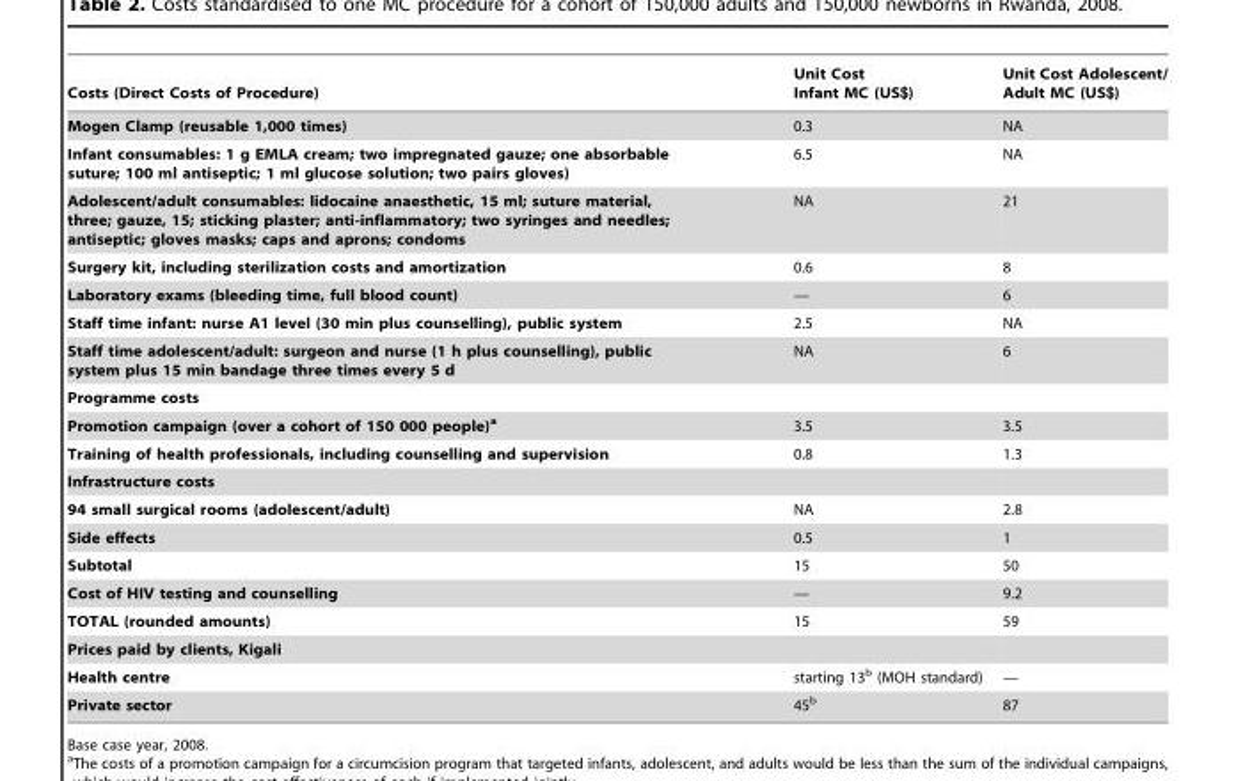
<table><thead><tr><td>Costs (Direct Costs of Procedure)</td><td>Unit Cost Infant MC (US$)</td><td>Unit Cost Adolescent/ Adult MC (US$)</td></tr></thead><tbody><tr><td>Mogen Clamp (reusable 1,000 times)</td><td>0.3</td><td>NA</td></tr><tr><td>Infant consumables: 1 g EMLA cream; two impregnated gauze; one absorbable suture; 100 ml antiseptic; 1 ml glucose solution; two pairs gloves)</td><td>6.5</td><td>NA</td></tr><tr><td>Adolescent/adult consumables: lidocaine anaesthetic, 15 ml; suture material, three; gauze, 15; sticking plaster; anti-inflammatory; two syringes and needles; antiseptic; gloves masks; caps and aprons; condoms</td><td>NA</td><td>21</td></tr><tr><td>Surgery kit, including sterilization costs and amortization</td><td>0.6</td><td>8</td></tr><tr><td>Laboratory exams (bleeding time, full blood count)</td><td>—</td><td>6</td></tr><tr><td>Staff time infant: nurse A1 level (30 min plus counselling), public system</td><td>2.5</td><td>NA</td></tr><tr><td>Staff time adolescent/adult: surgeon and nurse (1 h plus counselling), public system plus 15 min bandage three times every 5 d</td><td>NA</td><td>6</td></tr><tr><td colspan="3">Programme costs</td></tr><tr><td>Promotion campaign (over a cohort of 150 000 people)a</td><td>3.5</td><td>3.5</td></tr><tr><td>Training of health professionals, including counselling and supervision</td><td>0.8</td><td>1.3</td></tr><tr><td colspan="3">Infrastructure costs</td></tr><tr><td>94 small surgical rooms (adolescent/adult)</td><td>NA</td><td>2.8</td></tr><tr><td>Side effects</td><td>0.5</td><td>1</td></tr><tr><td>Subtotal</td><td>15</td><td>50</td></tr><tr><td>Cost of HIV testing and counselling</td><td>—</td><td>9.2</td></tr><tr><td>TOTAL (rounded amounts)</td><td>15</td><td>59</td></tr><tr><td colspan="3">Prices paid by clients, Kigali</td></tr><tr><td>Health centre</td><td>starting 13<sup>b</sup> (MOH standard)</td><td>—</td></tr><tr><td>Private sector</td><td>45<sup>b</sup></td><td>87</td></tr></tbody></table>